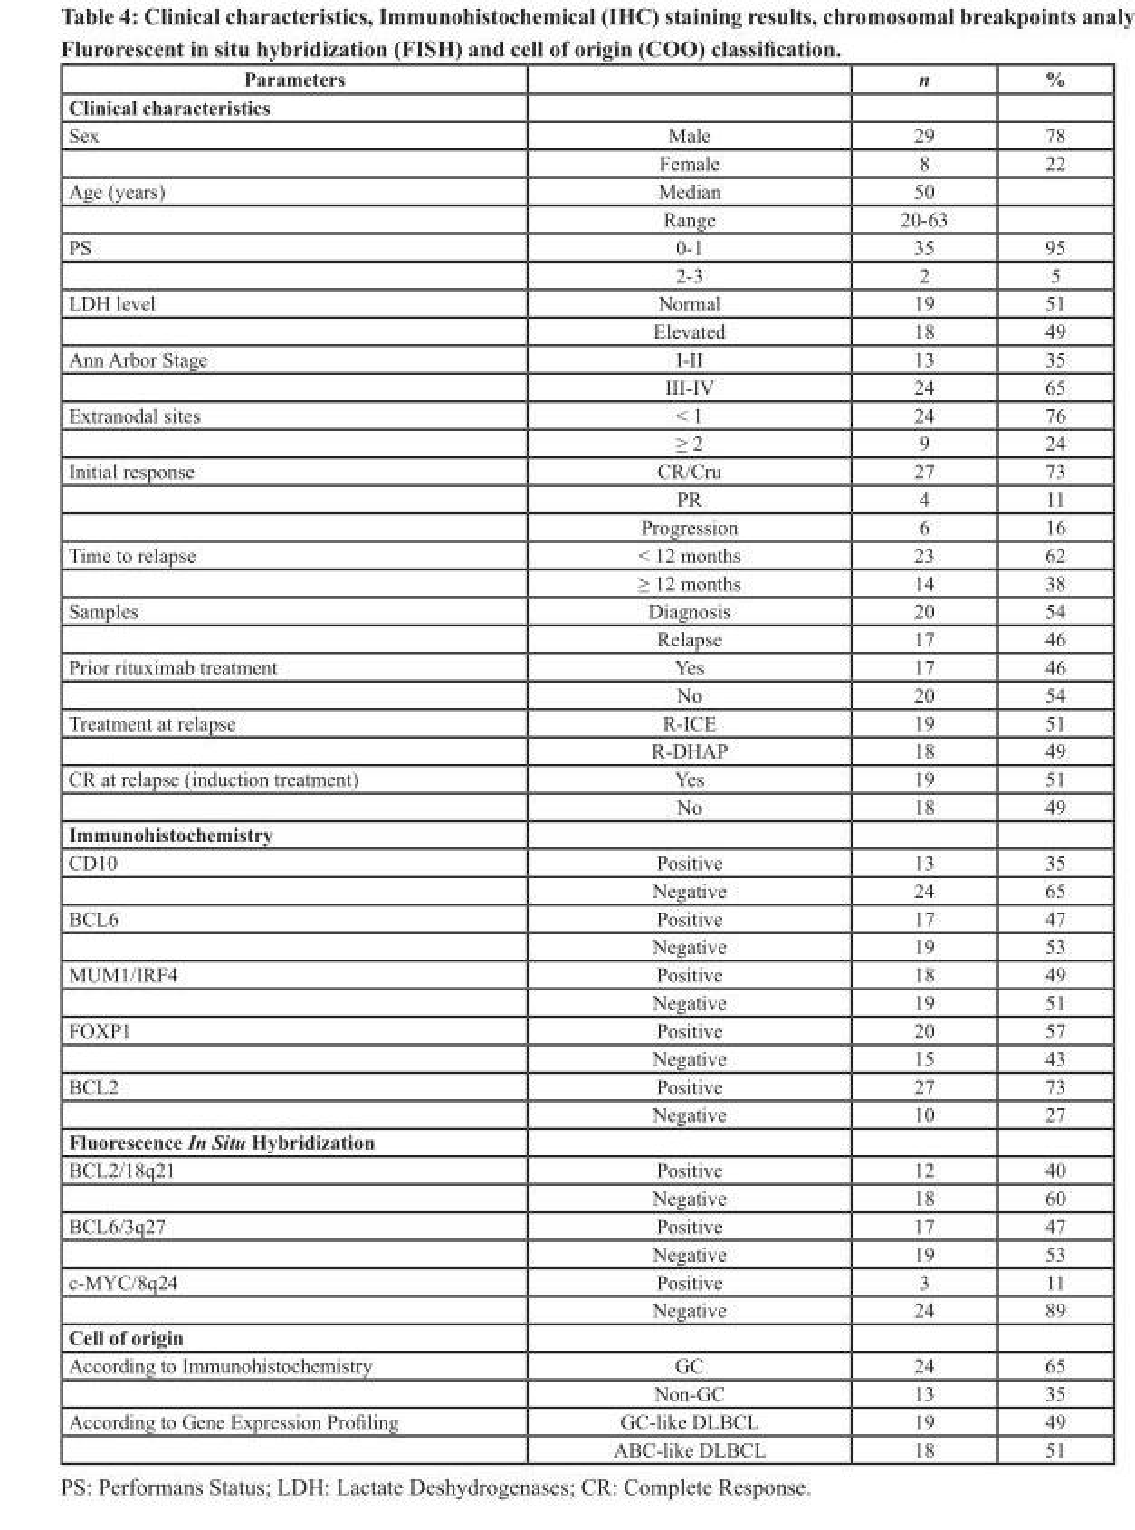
<table><thead><tr><td>Parameters</td><td></td><td>n</td><td>%</td></tr></thead><tbody><tr><td colspan="4">Clinical characteristics</td></tr><tr><td rowspan="2">Sex</td><td>Male</td><td>29</td><td>78</td></tr><tr><td>Female</td><td>8</td><td>22</td></tr><tr><td rowspan="2">Age (years)</td><td>Median</td><td>50</td><td></td></tr><tr><td>Range</td><td>20-63</td><td></td></tr><tr><td rowspan="2">PS</td><td>0-1</td><td>35</td><td>95</td></tr><tr><td>2-3</td><td>2</td><td>5</td></tr><tr><td rowspan="2">LDH level</td><td>Normal</td><td>19</td><td>51</td></tr><tr><td>Elevated</td><td>18</td><td>49</td></tr><tr><td rowspan="2">Ann Arbor Stage</td><td>I-II</td><td>13</td><td>35</td></tr><tr><td>III-IV</td><td>24</td><td>65</td></tr><tr><td rowspan="2">Extranodal sites</td><td>&lt; 1</td><td>24</td><td>76</td></tr><tr><td>≥ 2</td><td>9</td><td>24</td></tr><tr><td rowspan="3">Initial response</td><td>CR/Cru</td><td>27</td><td>73</td></tr><tr><td>PR</td><td>4</td><td>11</td></tr><tr><td>Progression</td><td>6</td><td>16</td></tr><tr><td rowspan="2">Time to relapse</td><td>&lt; 12 months</td><td>23</td><td>62</td></tr><tr><td>≥ 12 months</td><td>14</td><td>38</td></tr><tr><td rowspan="2">Samples</td><td>Diagnosis</td><td>20</td><td>54</td></tr><tr><td>Relapse</td><td>17</td><td>46</td></tr><tr><td rowspan="2">Prior rituximab treatment</td><td>Yes</td><td>17</td><td>46</td></tr><tr><td>No</td><td>20</td><td>54</td></tr><tr><td rowspan="2">Treatment at relapse</td><td>R-ICE</td><td>19</td><td>51</td></tr><tr><td>R-DHAP</td><td>18</td><td>49</td></tr><tr><td rowspan="2">CR at relapse (induction treatment)</td><td>Yes</td><td>19</td><td>51</td></tr><tr><td>No</td><td>18</td><td>49</td></tr><tr><td colspan="4">Immunohistochemistry</td></tr><tr><td rowspan="2">CD10</td><td>Positive</td><td>13</td><td>35</td></tr><tr><td>Negative</td><td>24</td><td>65</td></tr><tr><td rowspan="2">BCL6</td><td>Positive</td><td>17</td><td>47</td></tr><tr><td>Negative</td><td>19</td><td>53</td></tr><tr><td rowspan="2">MUM1/IRF4</td><td>Positive</td><td>18</td><td>49</td></tr><tr><td>Negative</td><td>19</td><td>51</td></tr><tr><td rowspan="2">FOXP1</td><td>Positive</td><td>20</td><td>57</td></tr><tr><td>Negative</td><td>15</td><td>43</td></tr><tr><td rowspan="2">BCL2</td><td>Positive</td><td>27</td><td>73</td></tr><tr><td>Negative</td><td>10</td><td>27</td></tr><tr><td colspan="4">Fluorescence In Situ Hybridization</td></tr><tr><td rowspan="2">BCL2/18q21</td><td>Positive</td><td>12</td><td>40</td></tr><tr><td>Negative</td><td>18</td><td>60</td></tr><tr><td rowspan="2">BCL6/3q27</td><td>Positive</td><td>17</td><td>47</td></tr><tr><td>Negative</td><td>19</td><td>53</td></tr><tr><td rowspan="2">c-MYC/8q24</td><td>Positive</td><td>3</td><td>11</td></tr><tr><td>Negative</td><td>24</td><td>89</td></tr><tr><td colspan="4">Cell of origin</td></tr><tr><td rowspan="2">According to Immunohistochemistry</td><td>GC</td><td>24</td><td>65</td></tr><tr><td>Non-GC</td><td>13</td><td>35</td></tr><tr><td rowspan="2">According to Gene Expression Profiling</td><td>GC-like DLBCL</td><td>19</td><td>49</td></tr><tr><td>ABC-like DLBCL</td><td>18</td><td>51</td></tr></tbody></table>